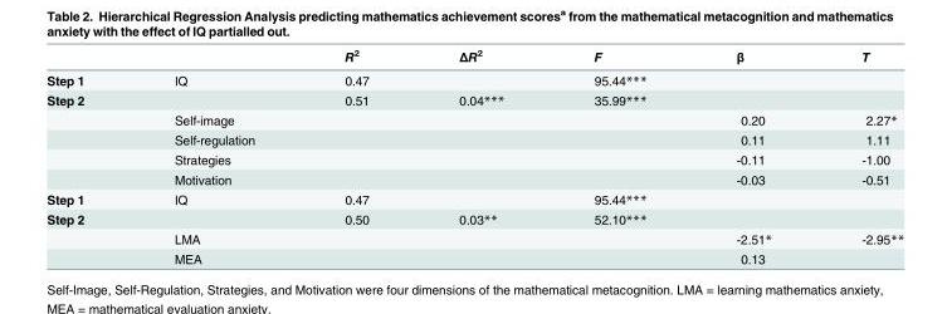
<table><thead><tr><td></td><td></td><td>R<sup>2</sup></td><td>ΔR<sup>2</sup></td><td>F</td><td>β</td><td>T</td></tr></thead><tbody><tr><td>Step 1</td><td>IQ</td><td>0.47</td><td></td><td>95.44***</td><td></td><td></td></tr><tr><td rowspan="5">Step 2</td><td></td><td>0.51</td><td>0.04***</td><td>35.99***</td><td></td><td></td></tr><tr><td>Self-image</td><td></td><td></td><td></td><td>0.20</td><td>2.27*</td></tr><tr><td>Self-regulation</td><td></td><td></td><td></td><td>0.11</td><td>1.11</td></tr><tr><td>Strategies</td><td></td><td></td><td></td><td>-0.11</td><td>-1.00</td></tr><tr><td>Motivation</td><td></td><td></td><td></td><td>-0.03</td><td>-0.51</td></tr><tr><td>Step 1</td><td>IQ</td><td>0.47</td><td></td><td>95.44***</td><td></td><td></td></tr><tr><td rowspan="3">Step 2</td><td></td><td>0.50</td><td>0.03**</td><td>52.10***</td><td></td><td></td></tr><tr><td>LMA</td><td></td><td></td><td></td><td>-2.51*</td><td>-2.95**</td></tr><tr><td>MEA</td><td></td><td></td><td></td><td>0.13</td><td></td></tr></tbody></table>